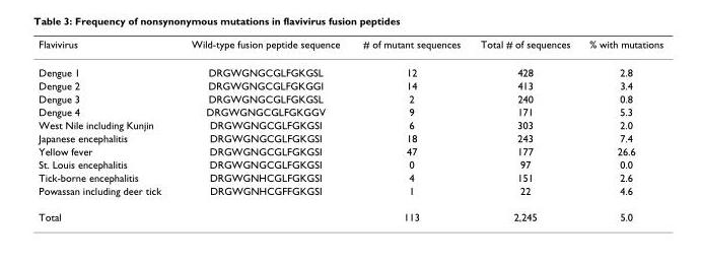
<table><thead><tr><td>Flavivirus</td><td>Wild-type fusion peptide sequence</td><td># of mutant sequences</td><td>Total # of sequences</td><td>% with mutations</td></tr></thead><tbody><tr><td>Dengue 1</td><td>DRGWGNGCGLFGKGSL</td><td>12</td><td>428</td><td>2.8</td></tr><tr><td>Dengue 2</td><td>DRGWGNGCGLFGKGGI</td><td>14</td><td>413</td><td>3.4</td></tr><tr><td>Dengue 3</td><td>DRGWGNGCGLFGKGSL</td><td>2</td><td>240</td><td>0.8</td></tr><tr><td>Dengue 4</td><td>DRGWGNGCGLFGKGGV</td><td>9</td><td>171</td><td>5.3</td></tr><tr><td>West Nile including Kunjin</td><td>DRGWGNGCGLFGKGSI</td><td>6</td><td>303</td><td>2.0</td></tr><tr><td>Japanese encephalitis</td><td>DRGWGNGCGLFGKGSI</td><td>18</td><td>243</td><td>7.4</td></tr><tr><td>Yellow fever</td><td>DRGWGNGCGLFGKGSI</td><td>47</td><td>177</td><td>26.6</td></tr><tr><td>St. Louis encephalitis</td><td>DRGWGNGCGLFGKGSI</td><td>0</td><td>97</td><td>0.0</td></tr><tr><td>Tick-borne encephalitis</td><td>DRGWGNHCGLFGKGSI</td><td>4</td><td>151</td><td>2.6</td></tr><tr><td>Powassan including deer tick</td><td>DRGWGNHCGFFGKGSI</td><td>1</td><td>22</td><td>4.6</td></tr><tr><td>Total</td><td></td><td>113</td><td>2,245</td><td>5.0</td></tr></tbody></table>